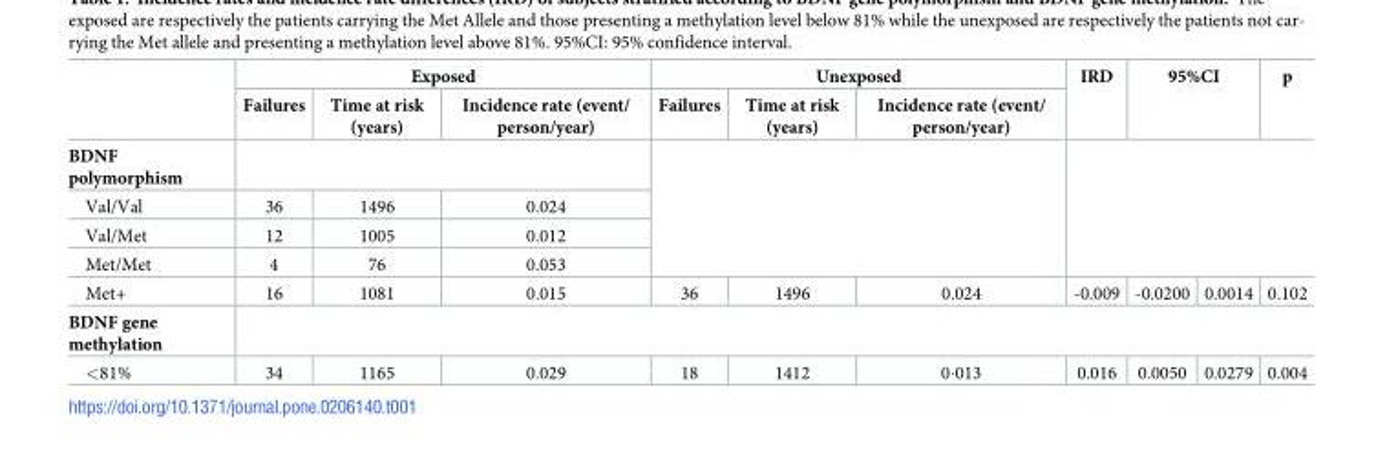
<table><thead><tr><td rowspan="2"></td><td colspan="3">Exposed</td><td colspan="3">Unexposed</td><td rowspan="2">IRD</td><td rowspan="2" colspan="2">95%CI</td><td rowspan="2">p</td></tr><tr><td>Failures</td><td>Time at risk (years)</td><td>Incidence rate (event/ person/year)</td><td>Failures</td><td>Time at risk (years)</td><td>Incidence rate (event/ person/year)</td></tr></thead><tbody><tr><td colspan="4">BDNF polymorphism</td><td rowspan="4" colspan="3"></td><td rowspan="4" colspan="4"></td></tr><tr><td>Val/Val</td><td>36</td><td>1496</td><td>0.024</td></tr><tr><td>Val/Met</td><td>12</td><td>1005</td><td>0.012</td></tr><tr><td>Met/Met</td><td>4</td><td>76</td><td>0.053</td></tr><tr><td>Met+</td><td>16</td><td>1081</td><td>0.015</td><td>36</td><td>1496</td><td>0.024</td><td>-0.009</td><td>-0.0200</td><td>0.0014</td><td>0.102</td></tr><tr><td colspan="11">BDNF gene methylation</td></tr><tr><td>&lt;81%</td><td>34</td><td>1165</td><td>0.029</td><td>18</td><td>1412</td><td>0·013</td><td>0.016</td><td>0.0050</td><td>0.0279</td><td>0.004</td></tr></tbody></table>